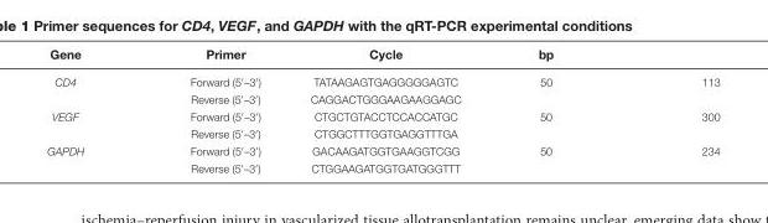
<table><thead><tr><td>Gene</td><td>Primer</td><td>Cycle</td><td>bp</td><td></td></tr></thead><tbody><tr><td rowspan="2">CD4</td><td>Forward (5′–3′)</td><td>TATAAGAGTGAGGGGGAGTC</td><td>50</td><td>113</td></tr><tr><td>Reverse (5′–3′)</td><td>CAGGACTGGGAAGAAGGAGC</td><td></td><td></td></tr><tr><td rowspan="2">VEGF</td><td>Forward (5′–3′)</td><td>CTGCTGTACCTCCACCATGC</td><td>50</td><td>300</td></tr><tr><td>Reverse (5′–3′)</td><td>CTGGCTTTGGTGAGGTTTGA</td><td></td><td></td></tr><tr><td rowspan="2">GAPDH</td><td>Forward (5′–3′)</td><td>GACAAGATGGTGAAGGTCGG</td><td>50</td><td>234</td></tr><tr><td>Reverse (5′–3′)</td><td>CTGGAAGATGGTGATGGGTTT</td><td></td><td></td></tr></tbody></table>